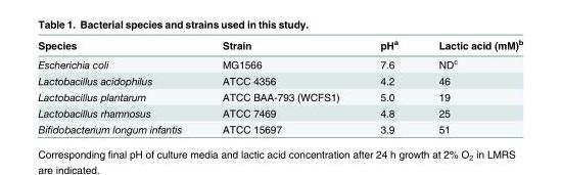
<table><thead><tr><td>Species</td><td>Strain</td><td>pH<sup>a</sup></td><td>Lactic acid (mM)<sup>b</sup></td></tr></thead><tbody><tr><td>Escherichia coli</td><td>MG1566</td><td>7.6</td><td>ND<sup>c</sup></td></tr><tr><td>Lactobacillus acidophilus</td><td>ATCC 4356</td><td>4.2</td><td>46</td></tr><tr><td>Lactobacillus plantarum</td><td>ATCC BAA-793 (WCFS1)</td><td>5.0</td><td>19</td></tr><tr><td>Lactobacillus rhamnosus</td><td>ATCC 7469</td><td>4.8</td><td>25</td></tr><tr><td>Bifidobacterium longum infantis</td><td>ATCC 15697</td><td>3.9</td><td>51</td></tr></tbody></table>